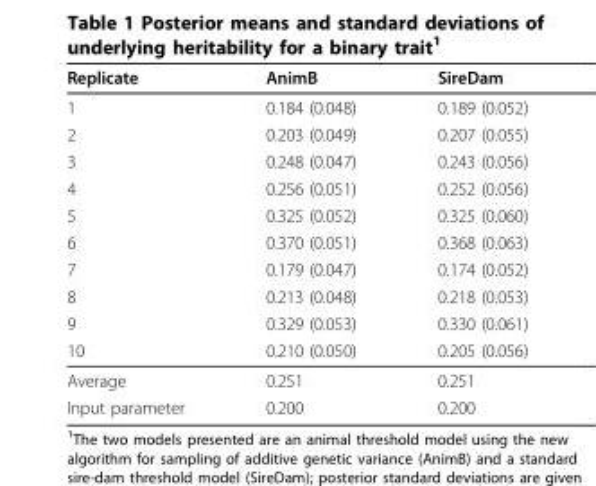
<table><thead><tr><td>Replicate</td><td>AnimB</td><td>SireDam</td></tr></thead><tbody><tr><td>1</td><td>0.184 (0.048)</td><td>0.189 (0.052)</td></tr><tr><td>2</td><td>0.203 (0.049)</td><td>0.207 (0.055)</td></tr><tr><td>3</td><td>0.248 (0.047)</td><td>0.243 (0.056)</td></tr><tr><td>4</td><td>0.256 (0.051)</td><td>0.252 (0.056)</td></tr><tr><td>5</td><td>0.325 (0.052)</td><td>0.325 (0.060)</td></tr><tr><td>6</td><td>0.370 (0.051)</td><td>0.368 (0.063)</td></tr><tr><td>7</td><td>0.179 (0.047)</td><td>0.174 (0.052)</td></tr><tr><td>8</td><td>0.213 (0.048)</td><td>0.218 (0.053)</td></tr><tr><td>9</td><td>0.329 (0.053)</td><td>0.330 (0.061)</td></tr><tr><td>10</td><td>0.210 (0.050)</td><td>0.205 (0.056)</td></tr><tr><td>Average</td><td>0.251</td><td>0.251</td></tr><tr><td>Input parameter</td><td>0.200</td><td>0.200</td></tr></tbody></table>